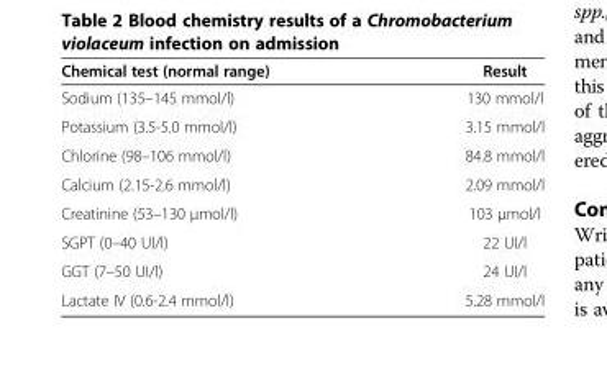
<table><thead><tr><td>Chemical test (normal range)</td><td>Result</td></tr></thead><tbody><tr><td>Sodium (135–145 mmol/l)</td><td>130 mmol/l</td></tr><tr><td>Potassium (3.5-5.0 mmol/l)</td><td>3.15 mmol/l</td></tr><tr><td>Chlorine (98–106 mmol/l)</td><td>84.8 mmol/l</td></tr><tr><td>Calcium (2.15-2.6 mmol/l)</td><td>2.09 mmol/l</td></tr><tr><td>Creatinine (53–130 μmol/l)</td><td>103 μmol/l</td></tr><tr><td>SGPT (0–40 Ul/l)</td><td>22 UI/l</td></tr><tr><td>GGT (7–50 UI/l)</td><td>24 UI/l</td></tr><tr><td>Lactate IV (0.6-2.4 mmol/l)</td><td>5.28 mmol/l</td></tr></tbody></table>